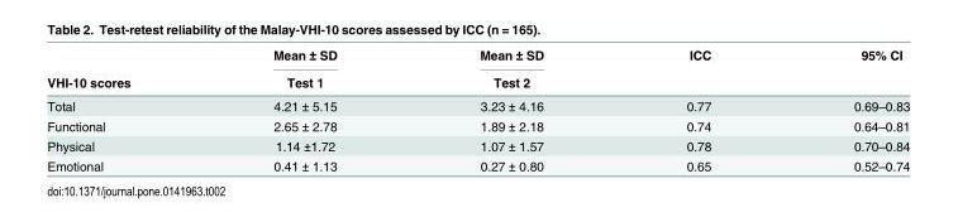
<table><thead><tr><td rowspan="2">VHI-10 scores</td><td rowspan="2">Mean ± SD Test 1</td><td rowspan="2">Mean ± SD Test 2</td><td rowspan="2">ICC</td><td rowspan="2">95% CI</td></tr><tr></tr></thead><tbody><tr><td>Total</td><td>4.21 ± 5.15</td><td>3.23 ± 4.16</td><td>0.77</td><td>0.69–0.83</td></tr><tr><td>Functional</td><td>2.65 ± 2.78</td><td>1.89 ± 2.18</td><td>0.74</td><td>0.64–0.81</td></tr><tr><td>Physical</td><td>1.14 ±1.72</td><td>1.07 ± 1.57</td><td>0.78</td><td>0.70–0.84</td></tr><tr><td>Emotional</td><td>0.41 ± 1.13</td><td>0.27 ± 0.80</td><td>0.65</td><td>0.52–0.74</td></tr></tbody></table>